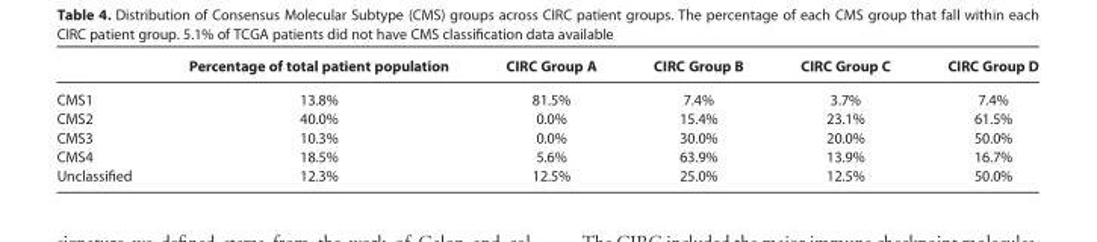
<table><thead><tr><td></td><td>Percentage of total patient population</td><td>CIRC Group A</td><td>CIRC Group B</td><td>CIRC Group C</td><td>CIRC Group D</td></tr></thead><tbody><tr><td>CMS1</td><td>13.8%</td><td>81.5%</td><td>7.4%</td><td>3.7%</td><td>7.4%</td></tr><tr><td>CMS2</td><td>40.0%</td><td>0.0%</td><td>15.4%</td><td>23.1%</td><td>61.5%</td></tr><tr><td>CMS3</td><td>10.3%</td><td>0.0%</td><td>30.0%</td><td>20.0%</td><td>50.0%</td></tr><tr><td>CMS4</td><td>18.5%</td><td>5.6%</td><td>63.9%</td><td>13.9%</td><td>16.7%</td></tr><tr><td>Unclassified</td><td>12.3%</td><td>12.5%</td><td>25.0%</td><td>12.5%</td><td>50.0%</td></tr></tbody></table>